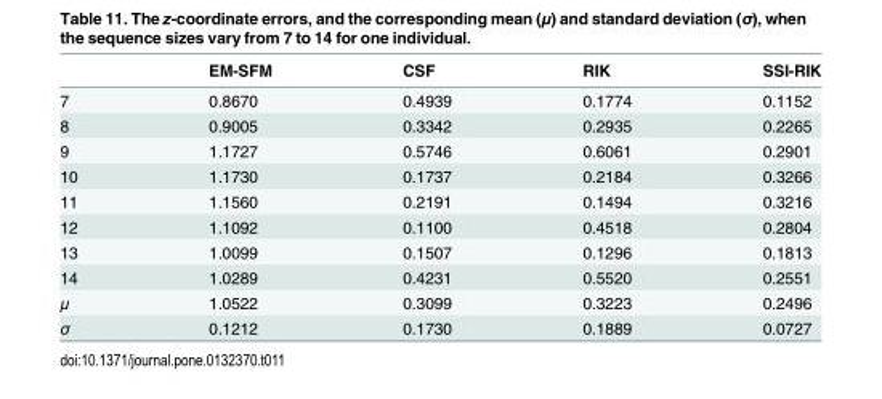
<table><thead><tr><td></td><td>EM-SFM</td><td>CSF</td><td>RIK</td><td>SSI-RIK</td></tr></thead><tbody><tr><td>7</td><td>0.8670</td><td>0.4939</td><td>0.1774</td><td>0.1152</td></tr><tr><td>8</td><td>0.9005</td><td>0.3342</td><td>0.2935</td><td>0.2265</td></tr><tr><td>9</td><td>1.1727</td><td>0.5746</td><td>0.6061</td><td>0.2901</td></tr><tr><td>10</td><td>1.1730</td><td>0.1737</td><td>0.2184</td><td>0.3266</td></tr><tr><td>11</td><td>1.1560</td><td>0.2191</td><td>0.1494</td><td>0.3216</td></tr><tr><td>12</td><td>1.1092</td><td>0.1100</td><td>0.4518</td><td>0.2804</td></tr><tr><td>13</td><td>1.0099</td><td>0.1507</td><td>0.1296</td><td>0.1813</td></tr><tr><td>14</td><td>1.0289</td><td>0.4231</td><td>0.5520</td><td>0.2551</td></tr><tr><td>μ</td><td>1.0522</td><td>0.3099</td><td>0.3223</td><td>0.2496</td></tr><tr><td>σ</td><td>0.1212</td><td>0.1730</td><td>0.1889</td><td>0.0727</td></tr></tbody></table>